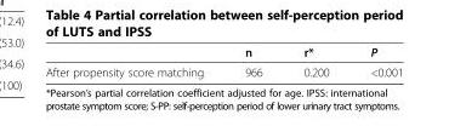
<table><thead><tr><td></td><td>n</td><td>r*</td><td>P</td></tr></thead><tbody><tr><td>After propensity score matching</td><td>966</td><td>0.200</td><td>&lt;0.001</td></tr></tbody></table>